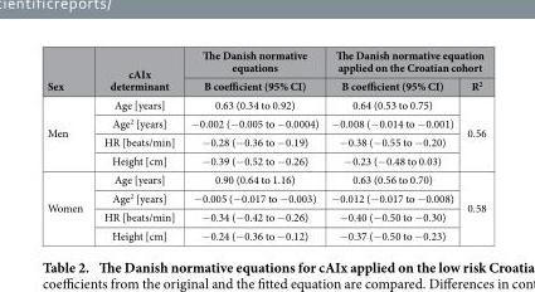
<table><thead><tr><td rowspan="2">Sex</td><td rowspan="2">cAIx determinant</td><td rowspan="2">The Danish normative equations B coefficient (95% CI)</td><td colspan="2">The Danish normative equation applied on the Croatian cohort</td></tr><tr><td>B coefficient (95% CI)</td><td>R<sup>2</sup></td></tr></thead><tbody><tr><td rowspan="4">Men</td><td>Age [years]</td><td>0.63 (0.34 to 0.92)</td><td>0.64 (0.53 to 0.75)</td><td rowspan="4">0.56</td></tr><tr><td>Age<sup>2</sup> [years]</td><td>− 0.002 (− 0.005 to − 0.0004)</td><td>− 0.008 (− 0.014 to − 0.001)</td></tr><tr><td>HR [beats/min]</td><td>− 0.28 (− 0.36 to − 0.19)</td><td>− 0.38 (− 0.55 to − 0.20)</td></tr><tr><td>Height [cm]</td><td>− 0.39 (− 0.52 to − 0.26)</td><td>− 0.23 (− 0.48 to 0.03)</td></tr><tr><td rowspan="4">Women</td><td>Age [years]</td><td>0.90 (0.64 to 1.16)</td><td>0.63 (0.56 to 0.70)</td><td rowspan="4">0.58</td></tr><tr><td>Age<sup>2</sup> [years]</td><td>− 0.005 (− 0.017 to − 0.003)</td><td>− 0.012 (− 0.017 to − 0.008)</td></tr><tr><td>HR [beats/min]</td><td>− 0.34 (− 0.42 to − 0.26)</td><td>− 0.40 (− 0.50 to − 0.30)</td></tr><tr><td>Height [cm]</td><td>− 0.24 (− 0.36 to − 0.12)</td><td>− 0.37 (− 0.50 to − 0.23)</td></tr></tbody></table>